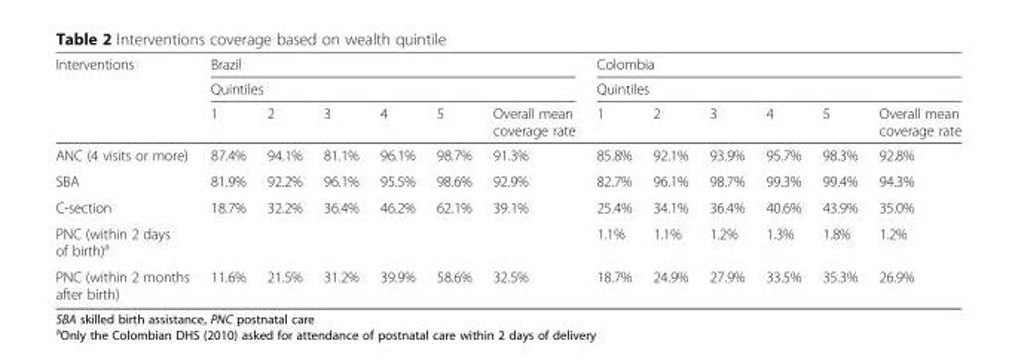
<table><thead><tr><td rowspan="3">Interventions</td><td rowspan="2" colspan="6">Brazil Quintiles</td><td rowspan="2" colspan="6">Colombia Quintiles</td></tr><tr></tr><tr><td>1</td><td>2</td><td>3</td><td>4</td><td>5</td><td>Overall mean coverage rate</td><td>1</td><td>2</td><td>3</td><td>4</td><td>5</td><td>Overall mean coverage rate</td></tr></thead><tbody><tr><td>ANC (4 visits or more)</td><td>87.4%</td><td>94.1%</td><td>81.1%</td><td>96.1%</td><td>98.7%</td><td>91.3%</td><td>85.8%</td><td>92.1%</td><td>93.9%</td><td>95.7%</td><td>98.3%</td><td>92.8%</td></tr><tr><td>SBA</td><td>81.9%</td><td>92.2%</td><td>96.1%</td><td>95.5%</td><td>98.6%</td><td>92.9%</td><td>82.7%</td><td>96.1%</td><td>98.7%</td><td>99.3%</td><td>99.4%</td><td>94.3%</td></tr><tr><td>C-section</td><td>18.7%</td><td>32.2%</td><td>36.4%</td><td>46.2%</td><td>62.1%</td><td>39.1%</td><td>25.4%</td><td>34.1%</td><td>36.4%</td><td>40.6%</td><td>43.9%</td><td>35.0%</td></tr><tr><td>PNC (within 2 days of birth)<sup>a</sup></td><td></td><td></td><td></td><td></td><td></td><td></td><td>1.1%</td><td>1.1%</td><td>1.2%</td><td>1.3%</td><td>1.8%</td><td>1.2%</td></tr><tr><td>PNC (within 2 months after birth)</td><td>11.6%</td><td>21.5%</td><td>31.2%</td><td>39.9%</td><td>58.6%</td><td>32.5%</td><td>18.7%</td><td>24.9%</td><td>27.9%</td><td>33.5%</td><td>35.3%</td><td>26.9%</td></tr></tbody></table>